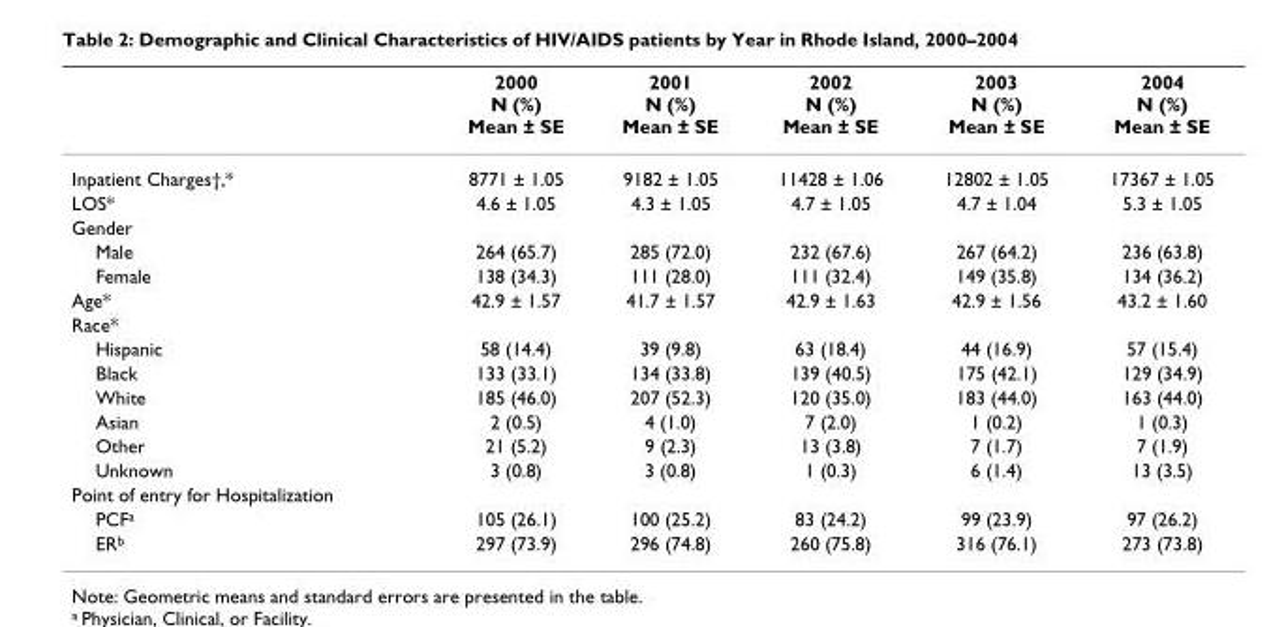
<table><thead><tr><td></td><td>2000 N (%) Mean ± SE</td><td>2001 N (%) Mean ± SE</td><td>2002 N (%) Mean ± SE</td><td>2003 N (%) Mean ± SE</td><td>2004 N (%) Mean ± SE</td></tr></thead><tbody><tr><td>Inpatient Charges†,*</td><td>8771 ± 1.05</td><td>9182 ± 1.05</td><td>11428 ± 1.06</td><td>12802 ± 1.05</td><td>17367 ± 1.05</td></tr><tr><td>LOS*</td><td>4.6 ± 1.05</td><td>4.3 ± 1.05</td><td>4.7 ± 1.05</td><td>4.7 ± 1.04</td><td>5.3 ± 1.05</td></tr><tr><td colspan="6">Gender</td></tr><tr><td>Male</td><td>264 (65.7)</td><td>285 (72.0)</td><td>232 (67.6)</td><td>267 (64.2)</td><td>236 (63.8)</td></tr><tr><td>Female</td><td>138 (34.3)</td><td>111 (28.0)</td><td>111 (32.4)</td><td>149 (35.8)</td><td>134 (36.2)</td></tr><tr><td>Age*</td><td>42.9 ± 1.57</td><td>41.7 ± 1.57</td><td>42.9 ± 1.63</td><td>42.9 ± 1.56</td><td>43.2 ± 1.60</td></tr><tr><td colspan="6">Race*</td></tr><tr><td>Hispanic</td><td>58 (14.4)</td><td>39 (9.8)</td><td>63 (18.4)</td><td>44 (16.9)</td><td>57 (15.4)</td></tr><tr><td>Black</td><td>133 (33.1)</td><td>134 (33.8)</td><td>139 (40.5)</td><td>175 (42.1)</td><td>129 (34.9)</td></tr><tr><td>White</td><td>185 (46.0)</td><td>207 (52.3)</td><td>120 (35.0)</td><td>183 (44.0)</td><td>163 (44.0)</td></tr><tr><td>Asian</td><td>2 (0.5)</td><td>4 (1.0)</td><td>7 (2.0)</td><td>1 (0.2)</td><td>1 (0.3)</td></tr><tr><td>Other</td><td>21 (5.2)</td><td>9 (2.3)</td><td>13 (3.8)</td><td>7 (1.7)</td><td>7 (1.9)</td></tr><tr><td>Unknown</td><td>3 (0.8)</td><td>3 (0.8)</td><td>1 (0.3)</td><td>6 (1.4)</td><td>13 (3.5)</td></tr><tr><td colspan="6">Point of entry for Hospitalization</td></tr><tr><td>PCF<sup>a</sup></td><td>105 (26.1)</td><td>100 (25.2)</td><td>83 (24.2)</td><td>99 (23.9)</td><td>97 (26.2)</td></tr><tr><td>ER<sup>b</sup></td><td>297 (73.9)</td><td>296 (74.8)</td><td>260 (75.8)</td><td>316 (76.1)</td><td>273 (73.8)</td></tr></tbody></table>